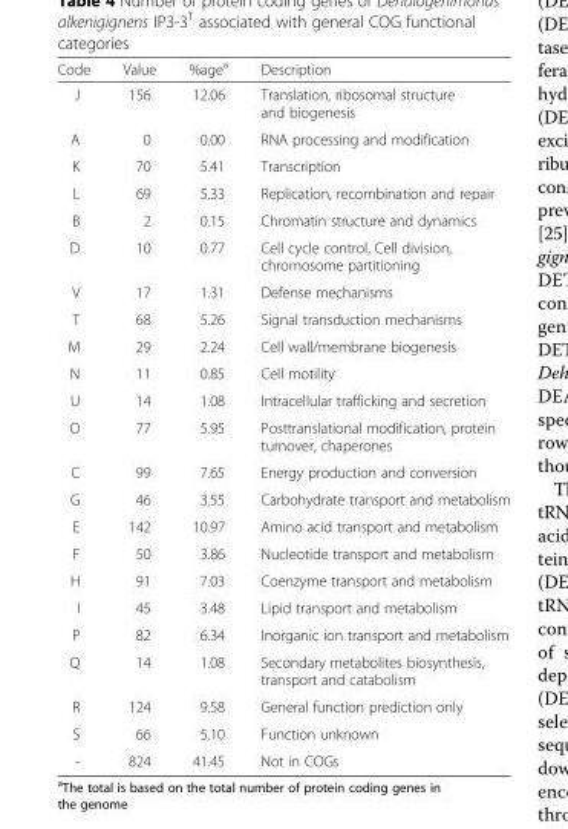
<table><thead><tr><td>Code</td><td>Value</td><td>%age<sup>a</sup></td><td>Description</td></tr></thead><tbody><tr><td>J</td><td>156</td><td>12.06</td><td>Translation, ribosomal structure and biogenesis</td></tr><tr><td>A</td><td>0</td><td>0.00</td><td>RNA processing and modification</td></tr><tr><td>K</td><td>70</td><td>5.41</td><td>Transcription</td></tr><tr><td>L</td><td>69</td><td>5.33</td><td>Replication, recombination and repair</td></tr><tr><td>B</td><td>2</td><td>0.15</td><td>Chromatin structure and dynamics</td></tr><tr><td>D</td><td>10</td><td>0.77</td><td>Cell cycle control, Cell division, chromosome partitioning</td></tr><tr><td>V</td><td>17</td><td>1.31</td><td>Defense mechanisms</td></tr><tr><td>T</td><td>68</td><td>5.26</td><td>Signal transduction mechanisms</td></tr><tr><td>M</td><td>29</td><td>2.24</td><td>Cell wall/membrane biogenesis</td></tr><tr><td>N</td><td>11</td><td>0.85</td><td>Cell motility</td></tr><tr><td>U</td><td>14</td><td>1.08</td><td>Intracellular trafficking and secretion</td></tr><tr><td>O</td><td>77</td><td>5.95</td><td>Posttranslational modification, protein turnover, chaperones</td></tr><tr><td>C</td><td>99</td><td>7.65</td><td>Energy production and conversion</td></tr><tr><td>G</td><td>46</td><td>3.55</td><td>Carbohydrate transport and metabolism</td></tr><tr><td>E</td><td>142</td><td>10.97</td><td>Amino acid transport and metabolism</td></tr><tr><td>F</td><td>50</td><td>3.86</td><td>Nucleotide transport and metabolism</td></tr><tr><td>H</td><td>91</td><td>7.03</td><td>Coenzyme transport and metabolism</td></tr><tr><td>I</td><td>45</td><td>3.48</td><td>Lipid transport and metabolism</td></tr><tr><td>P</td><td>82</td><td>6.34</td><td>Inorganic ion transport and metabolism</td></tr><tr><td>Q</td><td>14</td><td>1.08</td><td>Secondary metabolites biosynthesis, transport and catabolism</td></tr><tr><td>R</td><td>124</td><td>9.58</td><td>General function prediction only</td></tr><tr><td>S</td><td>66</td><td>5.10</td><td>Function unknown</td></tr><tr><td>-</td><td>824</td><td>41.45</td><td>Not in COGs</td></tr></tbody></table>